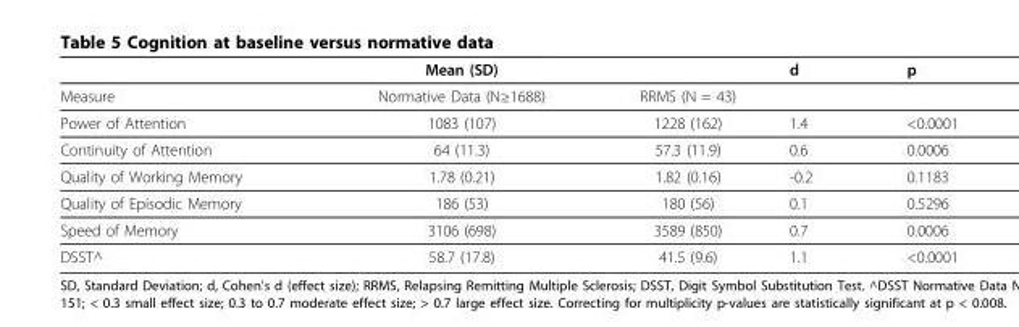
<table><thead><tr><td></td><td>Mean (SD)</td><td></td><td>d</td><td>p</td></tr></thead><tbody><tr><td>Measure</td><td>Normative Data (N≥1688)</td><td>RRMS (N = 43)</td><td></td><td></td></tr><tr><td>Power of Attention</td><td>1083 (107)</td><td>1228 (162)</td><td>1.4</td><td>&lt;0.0001</td></tr><tr><td>Continuity of Attention</td><td>64 (11.3)</td><td>57.3 (11.9)</td><td>0.6</td><td>0.0006</td></tr><tr><td>Quality of Working Memory</td><td>1.78 (0.21)</td><td>1.82 (0.16)</td><td>-0.2</td><td>0.1183</td></tr><tr><td>Quality of Episodic Memory</td><td>186 (53)</td><td>180 (56)</td><td>0.1</td><td>0.5296</td></tr><tr><td>Speed of Memory</td><td>3106 (698)</td><td>3589 (850)</td><td>0.7</td><td>0.0006</td></tr><tr><td>DSST^</td><td>58.7 (17.8)</td><td>41.5 (9.6)</td><td>1.1</td><td>&lt;0.0001</td></tr></tbody></table>